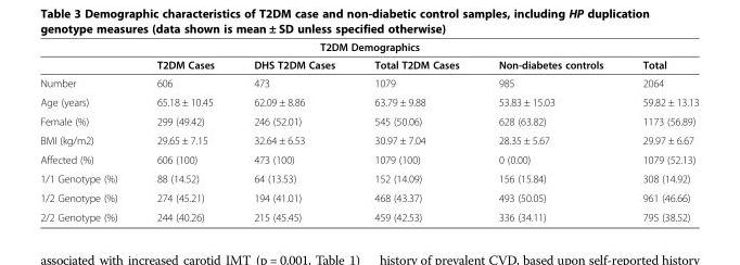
<table><thead><tr><td colspan="6">T2DM Demographics</td></tr><tr><td></td><td>T2DM Cases</td><td>DHS T2DM Cases</td><td>Total T2DM Cases</td><td>Non-diabetes controls</td><td>Total</td></tr></thead><tbody><tr><td>Number</td><td>606</td><td>473</td><td>1079</td><td>985</td><td>2064</td></tr><tr><td>Age (years)</td><td>65.18 ± 10.45</td><td>62.09 ± 8.86</td><td>63.79 ± 9.88</td><td>53.83 ± 15.03</td><td>59.82 ± 13.13</td></tr><tr><td>Female (%)</td><td>299 (49.42)</td><td>246 (52.01)</td><td>545 (50.06)</td><td>628 (63.82)</td><td>1173 (56.89)</td></tr><tr><td>BMI (kg/m2)</td><td>29.65 ± 7.15</td><td>32.64 ± 6.53</td><td>30.97 ± 7.04</td><td>28.35 ± 5.67</td><td>29.97 ± 6.67</td></tr><tr><td>Affected (%)</td><td>606 (100)</td><td>473 (100)</td><td>1079 (100)</td><td>0 (0.00)</td><td>1079 (52.13)</td></tr><tr><td>1/1 Genotype (%)</td><td>88 (14.52)</td><td>64 (13.53)</td><td>152 (14.09)</td><td>156 (15.84)</td><td>308 (14.92)</td></tr><tr><td>1/2 Genotype (%)</td><td>274 (45.21)</td><td>194 (41.01)</td><td>468 (43.37)</td><td>493 (50.05)</td><td>961 (46.66)</td></tr><tr><td>2/2 Genotype (%)</td><td>244 (40.26)</td><td>215 (45.45)</td><td>459 (42.53)</td><td>336 (34.11)</td><td>795 (38.52)</td></tr></tbody></table>